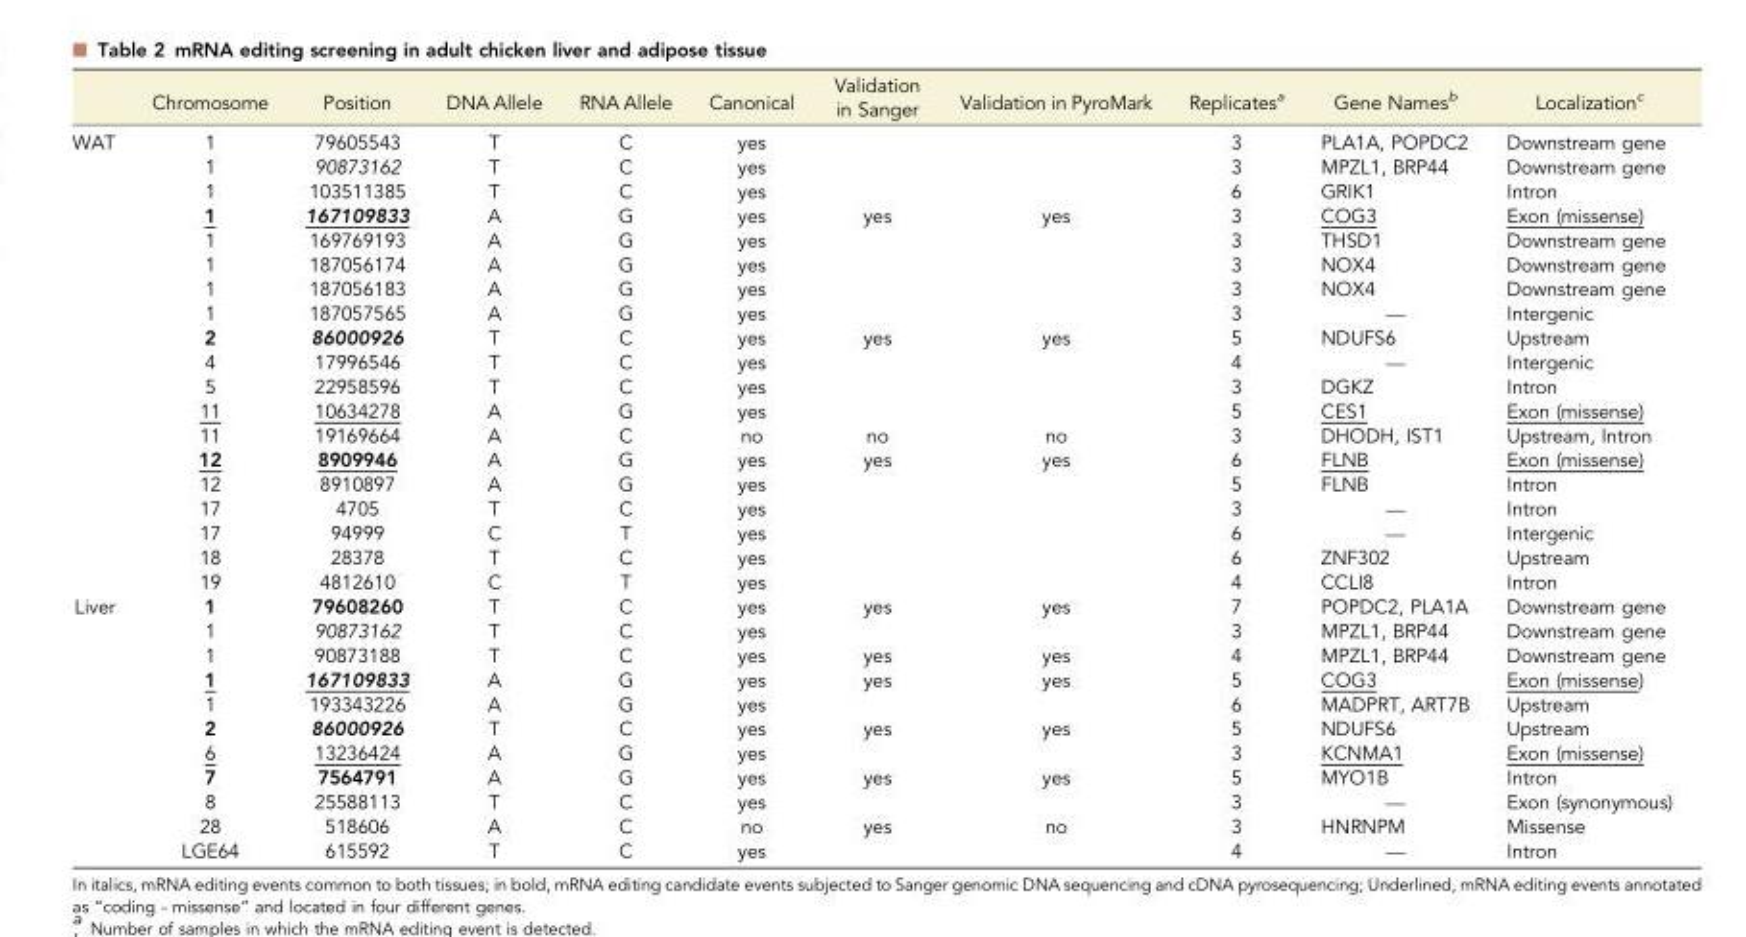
<table><thead><tr><td></td><td>Chromosome</td><td>Position</td><td>DNA Allele</td><td>RNA Allele</td><td>Canonical</td><td>Validation in Sanger</td><td>Validation in PyroMark</td><td>Replicatesa</td><td>Gene Namesb</td><td>Localizationc</td></tr></thead><tbody><tr><td rowspan="19">WAT</td><td>1</td><td>79605543</td><td>T</td><td>C</td><td>yes</td><td></td><td></td><td>3</td><td>PLA1A, POPDC2</td><td>Downstream gene</td></tr><tr><td>1</td><td>90873162</td><td>T</td><td>C</td><td>yes</td><td></td><td></td><td>3</td><td>MPZL1, BRP44</td><td>Downstream gene</td></tr><tr><td>1</td><td>103511385</td><td>T</td><td>C</td><td>yes</td><td></td><td></td><td>6</td><td>GRIK1</td><td>Intron</td></tr><tr><td>1</td><td>167109833</td><td>A</td><td>G</td><td>yes</td><td>yes</td><td>yes</td><td>3</td><td>COG3</td><td>Exon (missense)</td></tr><tr><td>1</td><td>169769193</td><td>A</td><td>G</td><td>yes</td><td></td><td></td><td>3</td><td>THSD1</td><td>Downstream gene</td></tr><tr><td>1</td><td>187056174</td><td>A</td><td>G</td><td>yes</td><td></td><td></td><td>3</td><td>NOX4</td><td>Downstream gene</td></tr><tr><td>1</td><td>187056183</td><td>A</td><td>G</td><td>yes</td><td></td><td></td><td>3</td><td>NOX4</td><td>Downstream gene</td></tr><tr><td>1</td><td>187057565</td><td>A</td><td>G</td><td>yes</td><td></td><td></td><td>3</td><td>—</td><td>Intergenic</td></tr><tr><td>2</td><td>86000926</td><td>T</td><td>C</td><td>yes</td><td>yes</td><td>yes</td><td>5</td><td>NDUFS6</td><td>Upstream</td></tr><tr><td>4</td><td>17996546</td><td>T</td><td>C</td><td>yes</td><td></td><td></td><td>4</td><td>—</td><td>Intergenic</td></tr><tr><td>5</td><td>22958596</td><td>T</td><td>C</td><td>yes</td><td></td><td></td><td>3</td><td>DGKZ</td><td>Intron</td></tr><tr><td>11</td><td>10634278</td><td>A</td><td>G</td><td>yes</td><td></td><td></td><td>5</td><td>CES1</td><td>Exon (missense)</td></tr><tr><td>11</td><td>19169664</td><td>A</td><td>C</td><td>no</td><td>no</td><td>no</td><td>3</td><td>DHODH, IST1</td><td>Upstream, Intron</td></tr><tr><td>12</td><td>8909946</td><td>A</td><td>G</td><td>yes</td><td>yes</td><td>yes</td><td>6</td><td>FLNB</td><td>Exon (missense)</td></tr><tr><td>12</td><td>8910897</td><td>A</td><td>G</td><td>yes</td><td></td><td></td><td>5</td><td>FLNB</td><td>Intron</td></tr><tr><td>17</td><td>4705</td><td>T</td><td>C</td><td>yes</td><td></td><td></td><td>3</td><td>—</td><td>Intron</td></tr><tr><td>17</td><td>94999</td><td>C</td><td>T</td><td>yes</td><td></td><td></td><td>6</td><td>—</td><td>Intergenic</td></tr><tr><td>18</td><td>28378</td><td>T</td><td>C</td><td>yes</td><td></td><td></td><td>6</td><td>ZNF302</td><td>Upstream</td></tr><tr><td>19</td><td>4812610</td><td>C</td><td>T</td><td>yes</td><td></td><td></td><td>4</td><td>CCLI8</td><td>Intron</td></tr><tr><td rowspan="11">Liver</td><td>1</td><td>79608260</td><td>T</td><td>C</td><td>yes</td><td>yes</td><td>yes</td><td>7</td><td>POPDC2, PLA1A</td><td>Downstream gene</td></tr><tr><td>1</td><td>90873162</td><td>T</td><td>C</td><td>yes</td><td></td><td></td><td>3</td><td>MPZL1, BRP44</td><td>Downstream gene</td></tr><tr><td>1</td><td>90873188</td><td>T</td><td>C</td><td>yes</td><td>yes</td><td>yes</td><td>4</td><td>MPZL1, BRP44</td><td>Downstream gene</td></tr><tr><td>1</td><td>167109833</td><td>A</td><td>G</td><td>yes</td><td>yes</td><td>yes</td><td>5</td><td>COG3</td><td>Exon (missense)</td></tr><tr><td>1</td><td>193343226</td><td>A</td><td>G</td><td>yes</td><td></td><td></td><td>6</td><td>MADPRT, ART7B</td><td>Upstream</td></tr><tr><td>2</td><td>86000926</td><td>T</td><td>C</td><td>yes</td><td>yes</td><td>yes</td><td>5</td><td>NDUFS6</td><td>Upstream</td></tr><tr><td>6</td><td>13236424</td><td>A</td><td>G</td><td>yes</td><td></td><td></td><td>3</td><td>KCNMA1</td><td>Exon (missense)</td></tr><tr><td>7</td><td>7564791</td><td>A</td><td>G</td><td>yes</td><td>yes</td><td>yes</td><td>5</td><td>MYO1B</td><td>Intron</td></tr><tr><td>8</td><td>25588113</td><td>T</td><td>C</td><td>yes</td><td></td><td></td><td>3</td><td>—</td><td>Exon (synonymous)</td></tr><tr><td>28</td><td>518606</td><td>A</td><td>C</td><td>no</td><td>yes</td><td>no</td><td>3</td><td>HNRNPM</td><td>Missense</td></tr><tr><td>LGE64</td><td>615592</td><td>T</td><td>C</td><td>yes</td><td></td><td></td><td>4</td><td>—</td><td>Intron</td></tr></tbody></table>